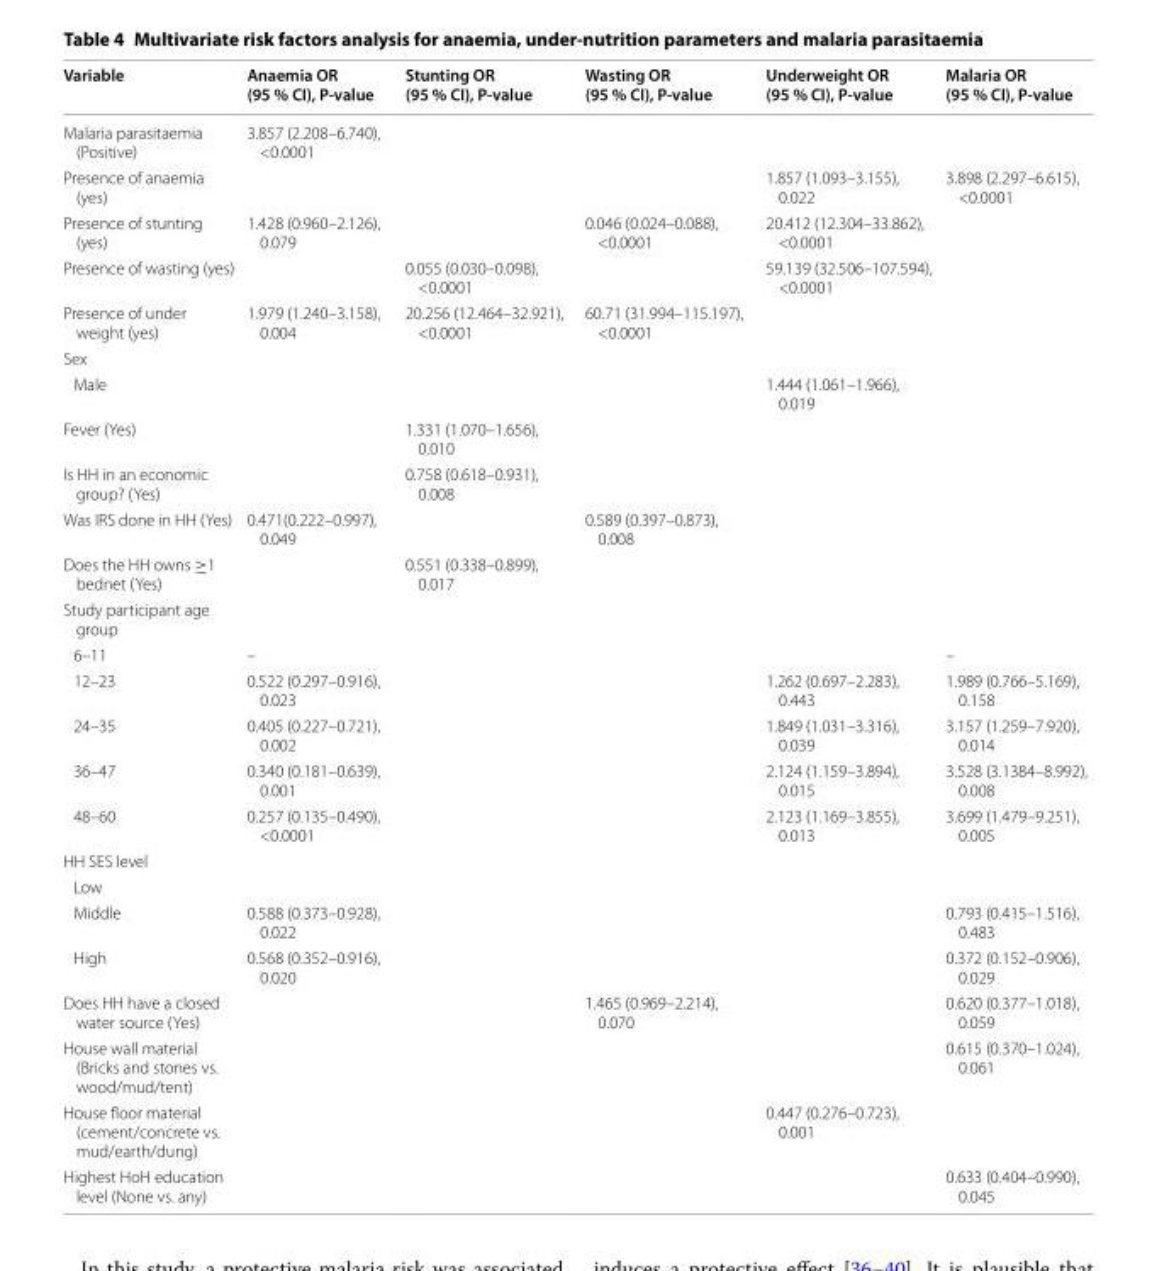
<table><thead><tr><td>Variable</td><td>Anaemia OR (95 % CI), P-value</td><td>Stunting OR (95 % CI), P-value</td><td>Wasting OR (95 % CI), P-value</td><td>Underweight OR (95 % CI), P-value</td><td>Malaria OR (95 % CI), P-value</td></tr></thead><tbody><tr><td>Malaria parasitaemia (Positive)</td><td>3.857 (2.208–6.740), &lt;0.0001</td><td></td><td></td><td></td><td></td></tr><tr><td>Presence of anaemia (yes)</td><td></td><td></td><td></td><td>1.857 (1.093–3.155), 0.022</td><td>3.898 (2.297–6.615), &lt;0.0001</td></tr><tr><td>Presence of stunting (yes)</td><td>1.428 (0.960–2.126), 0.079</td><td></td><td>0.046 (0.024–0.088), &lt;0.0001</td><td>20.412 (12.304–33.862), &lt;0.0001</td><td></td></tr><tr><td>Presence of wasting (yes)</td><td></td><td>0.055 (0.030–0.098), &lt;0.0001</td><td></td><td>59.139 (32.506–107.594), &lt;0.0001</td><td></td></tr><tr><td>Presence of under weight (yes)</td><td>1.979 (1.240–3.158), 0.004</td><td>20.256 (12.464–32.921), &lt;0.0001</td><td>60.71 (31.994–115.197), &lt;0.0001</td><td></td><td></td></tr><tr><td colspan="6">Sex</td></tr><tr><td>Male</td><td></td><td></td><td></td><td>1.444 (1.061–1.966), 0.019</td><td></td></tr><tr><td>Fever (Yes)</td><td></td><td>1.331 (1.070–1.656), 0.010</td><td></td><td></td><td></td></tr><tr><td>Is HH in an economic group? (Yes)</td><td></td><td>0.758 (0.618–0.931), 0.008</td><td></td><td></td><td></td></tr><tr><td>Was IRS done in HH (Yes)</td><td>0.471(0.222–0.997), 0.049</td><td></td><td>0.589 (0.397–0.873), 0.008</td><td></td><td></td></tr><tr><td>Does the HH owns ≥1 bednet (Yes)</td><td></td><td>0.551 (0.338–0.899), 0.017</td><td></td><td></td><td></td></tr><tr><td colspan="6">Study participant age group</td></tr><tr><td>6–11</td><td>–</td><td></td><td></td><td></td><td>–</td></tr><tr><td>12–23</td><td>0.522 (0.297–0.916), 0.023</td><td></td><td></td><td>1.262 (0.697–2.283), 0.443</td><td>1.989 (0.766–5.169), 0.158</td></tr><tr><td>24–35</td><td>0.405 (0.227–0.721), 0.002</td><td></td><td></td><td>1.849 (1.031–3.316), 0.039</td><td>3.157 (1.259–7.920), 0.014</td></tr><tr><td>36–47</td><td>0.340 (0.181–0.639), 0.001</td><td></td><td></td><td>2.124 (1.159–3.894), 0.015</td><td>3.528 (3.1384–8.992), 0.008</td></tr><tr><td>48–60</td><td>0.257 (0.135–0.490), &lt;0.0001</td><td></td><td></td><td>2.123 (1.169–3.855), 0.013</td><td>3.699 (1.479–9.251), 0.005</td></tr><tr><td colspan="6">HH SES level</td></tr><tr><td colspan="6">Low</td></tr><tr><td>Middle</td><td>0.588 (0.373–0.928), 0.022</td><td></td><td></td><td></td><td>0.793 (0.415–1.516), 0.483</td></tr><tr><td>High</td><td>0.568 (0.352–0.916), 0.020</td><td></td><td></td><td></td><td>0.372 (0.152–0.906), 0.029</td></tr><tr><td>Does HH have a closed water source (Yes)</td><td></td><td></td><td>1.465 (0.969–2.214), 0.070</td><td></td><td>0.620 (0.377–1.018), 0.059</td></tr><tr><td>House wall material (Bricks and stones vs. wood/mud/tent)</td><td></td><td></td><td></td><td></td><td>0.615 (0.370–1.024), 0.061</td></tr><tr><td>House floor material (cement/concrete vs. mud/earth/dung)</td><td></td><td></td><td></td><td>0.447 (0.276–0.723), 0.001</td><td></td></tr><tr><td>Highest HoH education level (None vs. any)</td><td></td><td></td><td></td><td></td><td>0.633 (0.404–0.990), 0.045</td></tr></tbody></table>